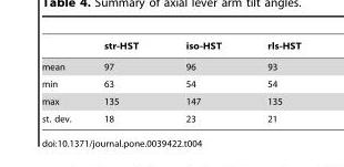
<table><thead><tr><td></td><td>str-HST</td><td>iso-HST</td><td>rls-HST</td></tr></thead><tbody><tr><td>mean</td><td>97</td><td>96</td><td>93</td></tr><tr><td>min</td><td>63</td><td>54</td><td>54</td></tr><tr><td>max</td><td>135</td><td>147</td><td>135</td></tr><tr><td>st. dev.</td><td>18</td><td>23</td><td>21</td></tr></tbody></table>